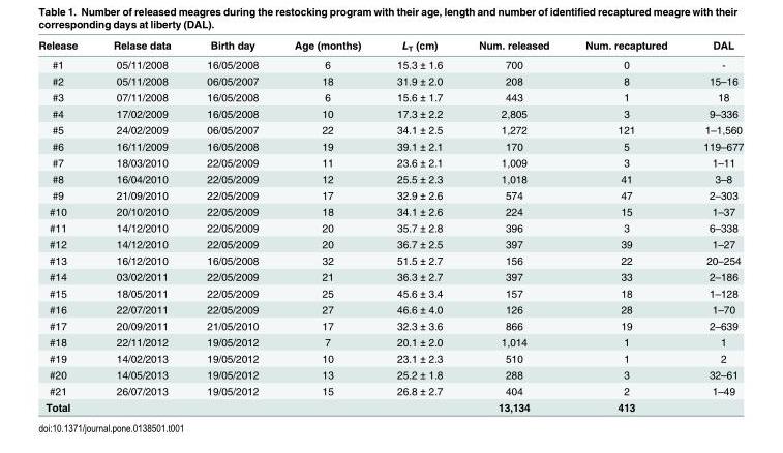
<table><thead><tr><td>Release</td><td>Relase data</td><td>Birth day</td><td>Age (months)</td><td>L<sub>T</sub> (cm)</td><td>Num. released</td><td>Num. recaptured</td><td>DAL</td></tr></thead><tbody><tr><td>#1</td><td>05/11/2008</td><td>16/05/2008</td><td>6</td><td>15.3 ± 1.6</td><td>700</td><td>0</td><td>-</td></tr><tr><td>#2</td><td>05/11/2008</td><td>06/05/2007</td><td>18</td><td>31.9 ± 2.0</td><td>208</td><td>8</td><td>15–16</td></tr><tr><td>#3</td><td>07/11/2008</td><td>16/05/2008</td><td>6</td><td>15.6 ± 1.7</td><td>443</td><td>1</td><td>18</td></tr><tr><td>#4</td><td>17/02/2009</td><td>16/05/2008</td><td>10</td><td>17.3 ± 2.2</td><td>2,805</td><td>3</td><td>9–336</td></tr><tr><td>#5</td><td>24/02/2009</td><td>06/05/2007</td><td>22</td><td>34.1 ± 2.5</td><td>1,272</td><td>121</td><td>1–1,560</td></tr><tr><td>#6</td><td>16/11/2009</td><td>16/05/2008</td><td>19</td><td>39.1 ± 2.1</td><td>170</td><td>5</td><td>119–677</td></tr><tr><td>#7</td><td>18/03/2010</td><td>22/05/2009</td><td>11</td><td>23.6 ± 2.1</td><td>1,009</td><td>3</td><td>1–11</td></tr><tr><td>#8</td><td>16/04/2010</td><td>22/05/2009</td><td>12</td><td>25.5 ± 2.3</td><td>1,018</td><td>41</td><td>3–8</td></tr><tr><td>#9</td><td>21/09/2010</td><td>22/05/2009</td><td>17</td><td>32.9 ± 2.6</td><td>574</td><td>47</td><td>2–303</td></tr><tr><td>#10</td><td>20/10/2010</td><td>22/05/2009</td><td>18</td><td>34.1 ± 2.6</td><td>224</td><td>15</td><td>1–37</td></tr><tr><td>#11</td><td>14/12/2010</td><td>22/05/2009</td><td>20</td><td>35.7 ± 2.8</td><td>396</td><td>3</td><td>6–338</td></tr><tr><td>#12</td><td>14/12/2010</td><td>22/05/2009</td><td>20</td><td>36.7 ± 2.5</td><td>397</td><td>39</td><td>1–27</td></tr><tr><td>#13</td><td>16/12/2010</td><td>16/05/2008</td><td>32</td><td>51.5 ± 2.7</td><td>156</td><td>22</td><td>20–254</td></tr><tr><td>#14</td><td>03/02/2011</td><td>22/05/2009</td><td>21</td><td>36.3 ± 2.7</td><td>397</td><td>33</td><td>2–186</td></tr><tr><td>#15</td><td>18/05/2011</td><td>22/05/2009</td><td>25</td><td>45.6 ± 3.4</td><td>157</td><td>18</td><td>1–128</td></tr><tr><td>#16</td><td>22/07/2011</td><td>22/05/2009</td><td>27</td><td>46.6 ± 4.0</td><td>126</td><td>28</td><td>1–70</td></tr><tr><td>#17</td><td>20/09/2011</td><td>21/05/2010</td><td>17</td><td>32.3 ± 3.6</td><td>866</td><td>19</td><td>2–639</td></tr><tr><td>#18</td><td>22/11/2012</td><td>19/05/2012</td><td>7</td><td>20.1 ± 2.0</td><td>1,014</td><td>1</td><td>1</td></tr><tr><td>#19</td><td>14/02/2013</td><td>19/05/2012</td><td>10</td><td>23.1 ± 2.3</td><td>510</td><td>1</td><td>2</td></tr><tr><td>#20</td><td>14/05/2013</td><td>19/05/2012</td><td>13</td><td>25.2 ± 1.8</td><td>288</td><td>3</td><td>32–61</td></tr><tr><td>#21</td><td>26/07/2013</td><td>19/05/2012</td><td>15</td><td>26.8 ± 2.7</td><td>404</td><td>2</td><td>1–49</td></tr><tr><td>Total</td><td></td><td></td><td></td><td></td><td>13,134</td><td>413</td><td></td></tr></tbody></table>